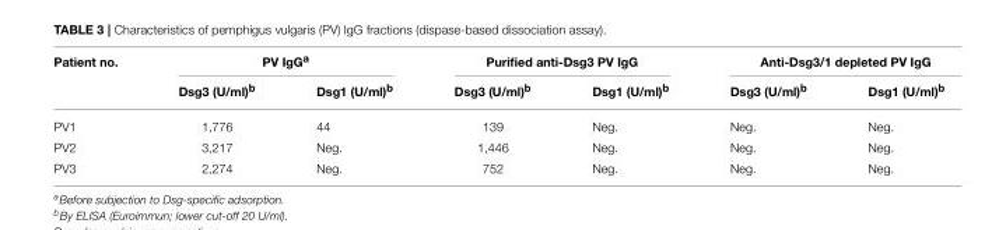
<table><thead><tr><td rowspan="2">Patient no.</td><td colspan="2">PV IgG<sup>a</sup></td><td colspan="2">Purified anti-Dsg3 PV IgG</td><td colspan="2">Anti-Dsg3/1 depleted PV IgG</td></tr><tr><td>Dsg3 (U/ml)<sup>b</sup></td><td>Dsg1 (U/ml)<sup>b</sup></td><td>Dsg3 (U/ml)<sup>b</sup></td><td>Dsg1 (U/ml)<sup>b</sup></td><td>Dsg3 (U/ml)<sup>b</sup></td><td>Dsg1 (U/ml)<sup>b</sup></td></tr></thead><tbody><tr><td>PV1</td><td>1,776</td><td>44</td><td>139</td><td>Neg.</td><td>Neg.</td><td>Neg.</td></tr><tr><td>PV2</td><td>3,217</td><td>Neg.</td><td>1,446</td><td>Neg.</td><td>Neg.</td><td>Neg.</td></tr><tr><td>PV3</td><td>2,274</td><td>Neg.</td><td>752</td><td>Neg.</td><td>Neg.</td><td>Neg.</td></tr></tbody></table>